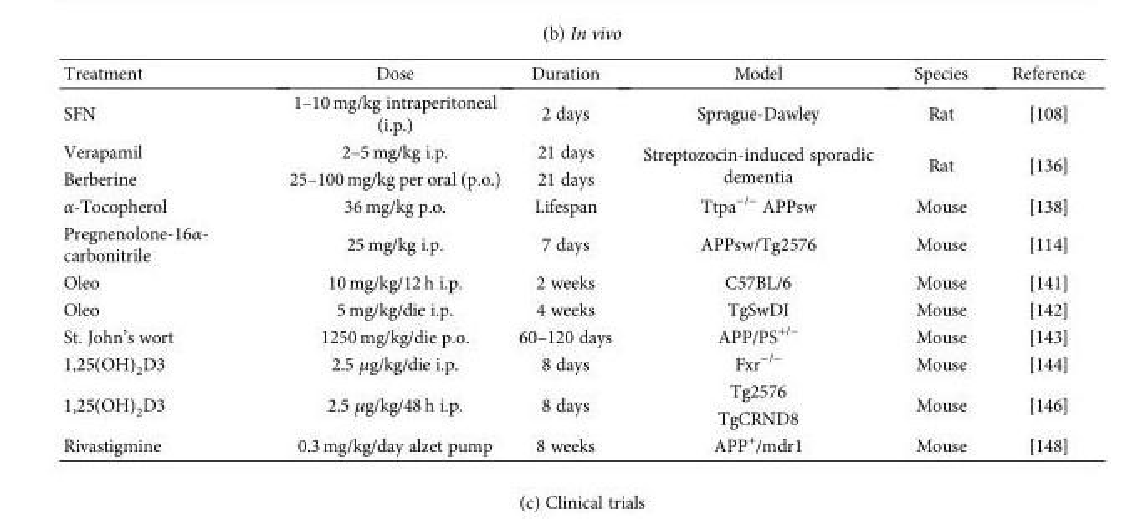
<table><thead><tr><td>Treatment</td><td>Dose</td><td>Duration</td><td>Model</td><td>Species</td><td>Reference</td></tr></thead><tbody><tr><td>SFN</td><td>1–10 mg/kg intraperitoneal (i.p.)</td><td>2 days</td><td>Sprague-Dawley</td><td>Rat</td><td>[108]</td></tr><tr><td>Verapamil</td><td>2–5 mg/kg i.p.</td><td>21 days</td><td rowspan="2">Streptozocin-induced sporadic dementia</td><td rowspan="2">Rat</td><td rowspan="2">[136]</td></tr><tr><td>Berberine</td><td>25–100 mg/kg per oral (p.o.)</td><td>21 days</td></tr><tr><td>α-Tocopherol</td><td>36 mg/kg p.o.</td><td>Lifespan</td><td>Ttpa<sup>−/−</sup> APPsw</td><td>Mouse</td><td>[138]</td></tr><tr><td>Pregnenolone-16α- carbonitrile</td><td>25 mg/kg i.p.</td><td>7 days</td><td>APPsw/Tg2576</td><td>Mouse</td><td>[114]</td></tr><tr><td>Oleo</td><td>10 mg/kg/12 h i.p.</td><td>2 weeks</td><td>C57BL/6</td><td>Mouse</td><td>[141]</td></tr><tr><td>Oleo</td><td>5 mg/kg/die i.p.</td><td>4 weeks</td><td>TgSwDI</td><td>Mouse</td><td>[142]</td></tr><tr><td>St. John’s wort</td><td>1250 mg/kg/die p.o.</td><td>60–120 days</td><td>APP/PS<sup>+/−</sup></td><td>Mouse</td><td>[143]</td></tr><tr><td>1,25(OH)<sub>2</sub>D3</td><td>2.5 μg/kg/die i.p.</td><td>8 days</td><td>Fxr<sup>−/−</sup></td><td>Mouse</td><td>[144]</td></tr><tr><td rowspan="2">1,25(OH)<sub>2</sub>D3</td><td rowspan="2">2.5 μg/kg/48 h i.p.</td><td rowspan="2">8 days</td><td>Tg2576</td><td rowspan="2">Mouse</td><td rowspan="2">[146]</td></tr><tr><td>TgCRND8</td></tr><tr><td>Rivastigmine</td><td>0.3 mg/kg/day alzet pump</td><td>8 weeks</td><td>APP<sup>+</sup>/mdr1</td><td>Mouse</td><td>[148]</td></tr></tbody></table>